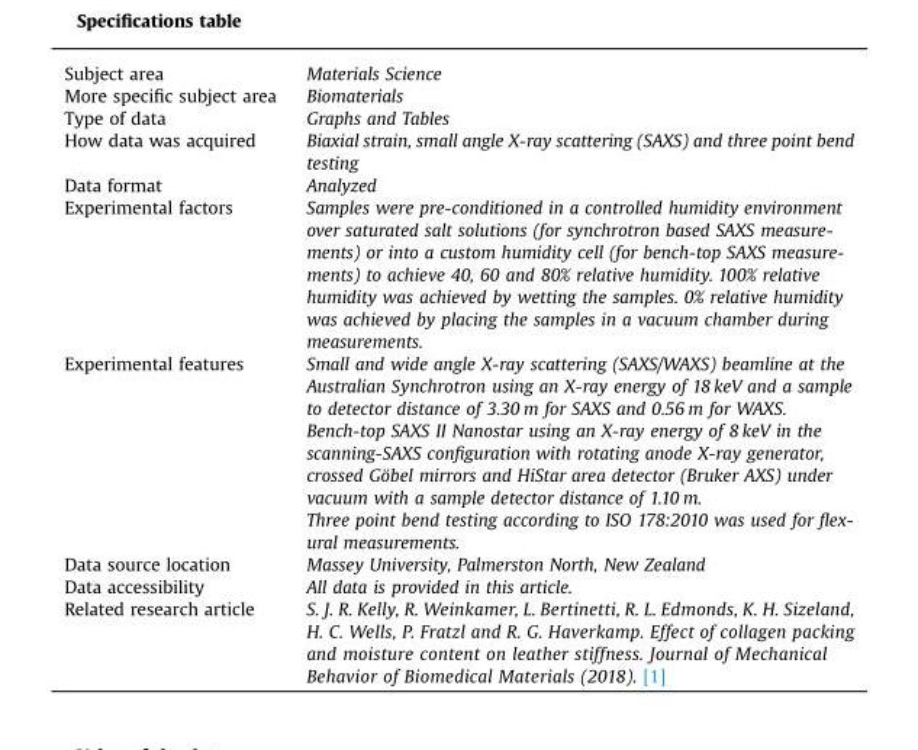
<table><tbody><tr><td>Subject area</td><td>Materials Science</td></tr><tr><td>More specific subject area</td><td>Biomaterials</td></tr><tr><td>Type of data</td><td>Graphs and Tables</td></tr><tr><td>How data was acquired</td><td>Biaxial strain, small angle X-ray scattering (SAXS) and three point bend testing</td></tr><tr><td>Data format</td><td>Analyzed</td></tr><tr><td>Experimental factors</td><td>Samples were pre-conditioned in a controlled humidity environment over saturated salt solutions (for synchrotron based SAXS measure- ments) or into a custom humidity cell (for bench-top SAXS measure- ments) to achieve 40, 60 and 80% relative humidity. 100% relative humidity was achieved by wetting the samples. 0% relative humidity was achieved by placing the samples in a vacuum chamber during measurements.</td></tr><tr><td rowspan="3">Experimental features</td><td>Small and wide angle X-ray scattering (SAXS/WAXS) beamline at the Australian Synchrotron using an X-ray energy of 18 keV and a sample to detector distance of 3.30 m for SAXS and 0.56 m for WAXS.</td></tr><tr><td>Bench-top SAXS II Nanostar using an X-ray energy of 8 keV in the scanning-SAXS configuration with rotating anode X-ray generator, crossed Göbel mirrors and HiStar area detector (Bruker AXS) under vacuum with a sample detector distance of 1.10 m.</td></tr><tr><td>Three point bend testing according to ISO 178:2010 was used for flex- ural measurements.</td></tr><tr><td>Data source location</td><td>Massey University, Palmerston North, New Zealand</td></tr><tr><td>Data accessibility</td><td>All data is provided in this article.</td></tr><tr><td>Related research article</td><td>S. J. R. Kelly, R. Weinkamer, L. Bertinetti, R. L. Edmonds, K. H. Sizeland, H. C. Wells, P. Fratzl and R. G. Haverkamp. Effect of collagen packing and moisture content on leather stiffness. Journal of Mechanical Behavior of Biomedical Materials (2018). [1]</td></tr></tbody></table>